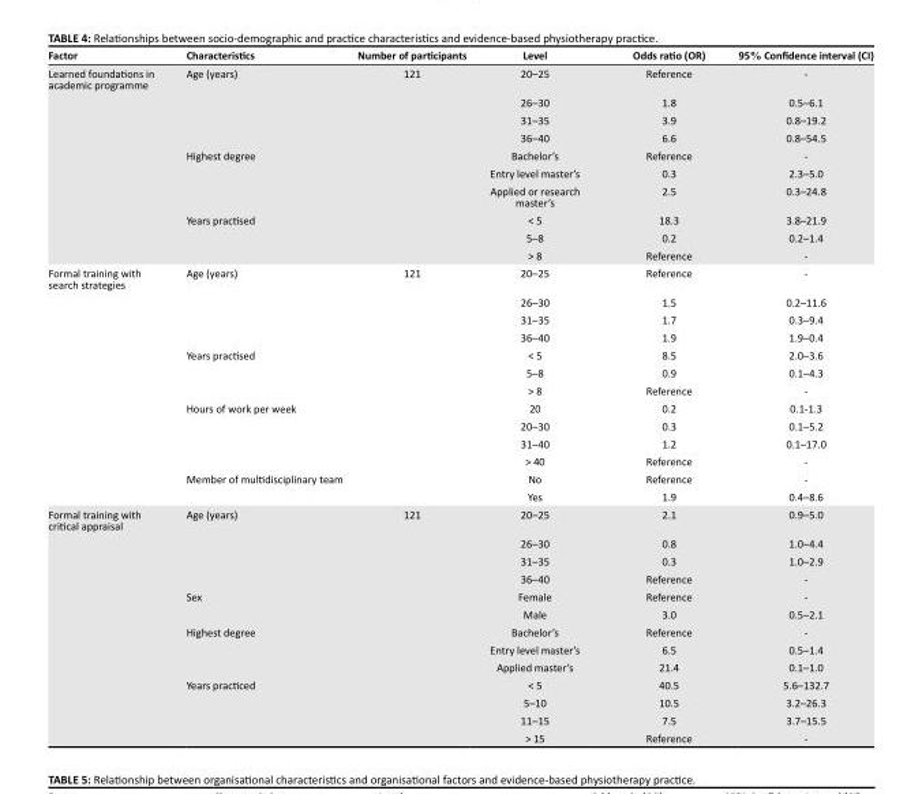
<table><thead><tr><td>Factor</td><td>Characteristics</td><td>Number of participants</td><td>Level</td><td>Odds ratio (OR)</td><td>95% Confidence interval (CI)</td></tr></thead><tbody><tr><td rowspan="10">Learned foundations in academic programme</td><td>Age (years)</td><td>121</td><td>20–25</td><td>Reference</td><td>-</td></tr><tr><td></td><td></td><td>26–30</td><td>1.8</td><td>0.5–6.1</td></tr><tr><td></td><td></td><td>31–35</td><td>3.9</td><td>0.8–19.2</td></tr><tr><td></td><td></td><td>36–40</td><td>6.6</td><td>0.8–54.5</td></tr><tr><td>Highest degree</td><td></td><td>Bachelor’s</td><td>Reference</td><td>-</td></tr><tr><td></td><td></td><td>Entry level master’s</td><td>0.3</td><td>2.3–5.0</td></tr><tr><td></td><td></td><td>Applied or research master’s</td><td>2.5</td><td>0.3–24.8</td></tr><tr><td>Years practised</td><td></td><td>&lt; 5</td><td>18.3</td><td>3.8–21.9</td></tr><tr><td></td><td></td><td>5–8</td><td>0.2</td><td>0.2–1.4</td></tr><tr><td></td><td></td><td>&gt; 8</td><td>Reference</td><td>-</td></tr><tr><td rowspan="13">Formal training with search strategies</td><td>Age (years)</td><td>121</td><td>20–25</td><td>Reference</td><td>-</td></tr><tr><td></td><td></td><td>26–30</td><td>1.5</td><td>0.2–11.6</td></tr><tr><td></td><td></td><td>31–35</td><td>1.7</td><td>0.3–9.4</td></tr><tr><td></td><td></td><td>36–40</td><td>1.9</td><td>1.9–0.4</td></tr><tr><td>Years practised</td><td></td><td>&lt; 5</td><td>8.5</td><td>2.0–3.6</td></tr><tr><td></td><td></td><td>5–8</td><td>0.9</td><td>0.1–4.3</td></tr><tr><td></td><td></td><td>&gt; 8</td><td>Reference</td><td>-</td></tr><tr><td>Hours of work per week</td><td></td><td>20</td><td>0.2</td><td>0.1-1.3</td></tr><tr><td></td><td></td><td>20–30</td><td>0.3</td><td>0.1–5.2</td></tr><tr><td></td><td></td><td>31–40</td><td>1.2</td><td>0.1–17.0</td></tr><tr><td></td><td></td><td>&gt; 40</td><td>Reference</td><td>-</td></tr><tr><td>Member of multidisciplinary team</td><td></td><td>No</td><td>Reference</td><td>-</td></tr><tr><td></td><td></td><td>Yes</td><td>1.9</td><td>0.4–8.6</td></tr><tr><td rowspan="13">Formal training with critical appraisal</td><td>Age (years)</td><td>121</td><td>20–25</td><td>2.1</td><td>0.9–5.0</td></tr><tr><td></td><td></td><td>26–30</td><td>0.8</td><td>1.0–4.4</td></tr><tr><td></td><td></td><td>31–35</td><td>0.3</td><td>1.0–2.9</td></tr><tr><td></td><td></td><td>36–40</td><td>Reference</td><td>-</td></tr><tr><td>Sex</td><td></td><td>Female</td><td>Reference</td><td>-</td></tr><tr><td></td><td></td><td>Male</td><td>3.0</td><td>0.5–2.1</td></tr><tr><td>Highest degree</td><td></td><td>Bachelor’s</td><td>Reference</td><td>-</td></tr><tr><td></td><td></td><td>Entry level master’s</td><td>6.5</td><td>0.5–1.4</td></tr><tr><td></td><td></td><td>Applied master’s</td><td>21.4</td><td>0.1–1.0</td></tr><tr><td>Years practiced</td><td></td><td>&lt; 5</td><td>40.5</td><td>5.6–132.7</td></tr><tr><td></td><td></td><td>5–10</td><td>10.5</td><td>3.2–26.3</td></tr><tr><td></td><td></td><td>11–15</td><td>7.5</td><td>3.7–15.5</td></tr><tr><td></td><td></td><td>&gt; 15</td><td>Reference</td><td>-</td></tr></tbody></table>